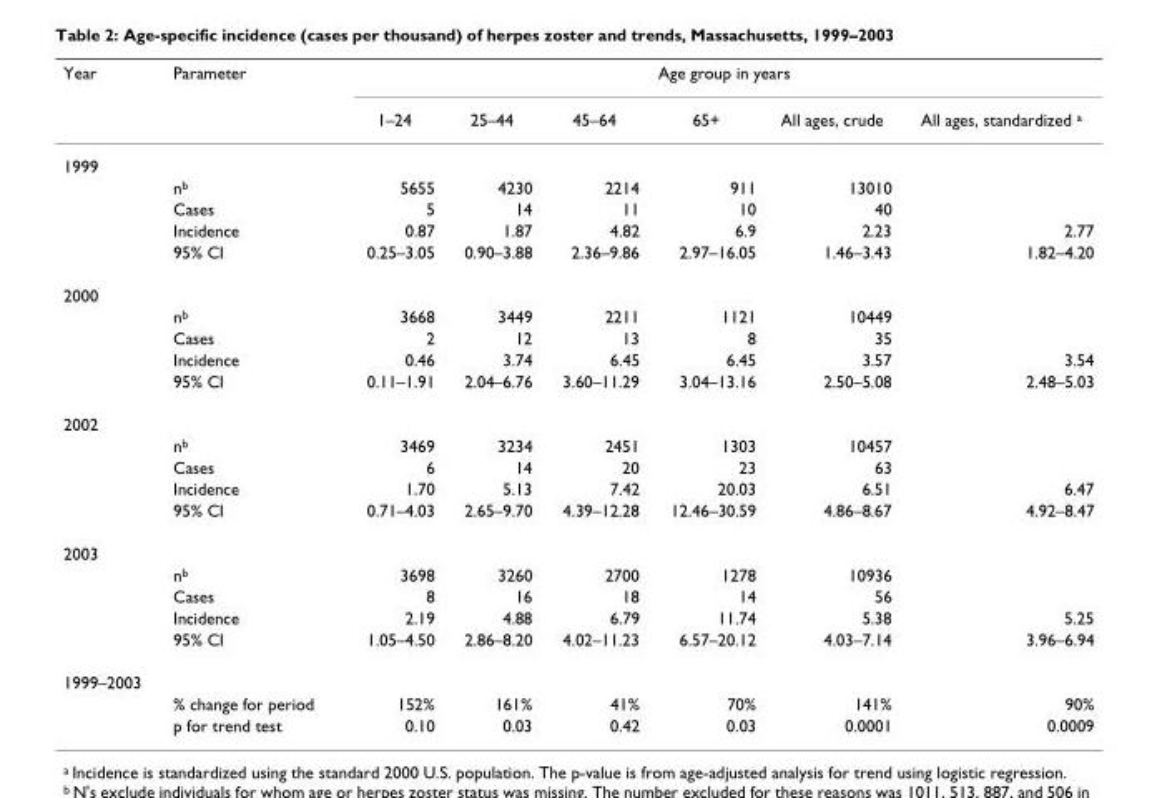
<table><thead><tr><td rowspan="2">Year</td><td rowspan="2">Parameter</td><td colspan="6">Age group in years</td></tr><tr><td>1–24</td><td>25–44</td><td>45–64</td><td>65+</td><td>All ages, crude</td><td>All ages, standardized <sup>a</sup></td></tr></thead><tbody><tr><td colspan="8">1999</td></tr><tr><td></td><td>n<sup>b</sup></td><td>5655</td><td>4230</td><td>2214</td><td>911</td><td>13010</td><td></td></tr><tr><td></td><td>Cases</td><td>5</td><td>14</td><td>11</td><td>10</td><td>40</td><td></td></tr><tr><td></td><td>Incidence</td><td>0.87</td><td>1.87</td><td>4.82</td><td>6.9</td><td>2.23</td><td>2.77</td></tr><tr><td></td><td>95% CI</td><td>0.25–3.05</td><td>0.90–3.88</td><td>2.36–9.86</td><td>2.97–16.05</td><td>1.46–3.43</td><td>1.82–4.20</td></tr><tr><td colspan="8">2000</td></tr><tr><td></td><td>n<sup>b</sup></td><td>3668</td><td>3449</td><td>2211</td><td>1121</td><td>10449</td><td></td></tr><tr><td></td><td>Cases</td><td>2</td><td>12</td><td>13</td><td>8</td><td>35</td><td></td></tr><tr><td></td><td>Incidence</td><td>0.46</td><td>3.74</td><td>6.45</td><td>6.45</td><td>3.57</td><td>3.54</td></tr><tr><td></td><td>95% CI</td><td>0.11–1.91</td><td>2.04–6.76</td><td>3.60–11.29</td><td>3.04–13.16</td><td>2.50–5.08</td><td>2.48–5.03</td></tr><tr><td colspan="8">2002</td></tr><tr><td></td><td>n<sup>b</sup></td><td>3469</td><td>3234</td><td>2451</td><td>1303</td><td>10457</td><td></td></tr><tr><td></td><td>Cases</td><td>6</td><td>14</td><td>20</td><td>23</td><td>63</td><td></td></tr><tr><td></td><td>Incidence</td><td>1.70</td><td>5.13</td><td>7.42</td><td>20.03</td><td>6.51</td><td>6.47</td></tr><tr><td></td><td>95% CI</td><td>0.71–4.03</td><td>2.65–9.70</td><td>4.39–12.28</td><td>12.46–30.59</td><td>4.86–8.67</td><td>4.92–8.47</td></tr><tr><td colspan="8">2003</td></tr><tr><td></td><td>n<sup>b</sup></td><td>3698</td><td>3260</td><td>2700</td><td>1278</td><td>10936</td><td></td></tr><tr><td></td><td>Cases</td><td>8</td><td>16</td><td>18</td><td>14</td><td>56</td><td></td></tr><tr><td></td><td>Incidence</td><td>2.19</td><td>4.88</td><td>6.79</td><td>11.74</td><td>5.38</td><td>5.25</td></tr><tr><td></td><td>95% CI</td><td>1.05–4.50</td><td>2.86–8.20</td><td>4.02–11.23</td><td>6.57–20.12</td><td>4.03–7.14</td><td>3.96–6.94</td></tr><tr><td colspan="8">1999–2003</td></tr><tr><td></td><td>% change for period</td><td>152%</td><td>161%</td><td>41%</td><td>70%</td><td>141%</td><td>90%</td></tr><tr><td></td><td>p for trend test</td><td>0.10</td><td>0.03</td><td>0.42</td><td>0.03</td><td>0.0001</td><td>0.0009</td></tr></tbody></table>